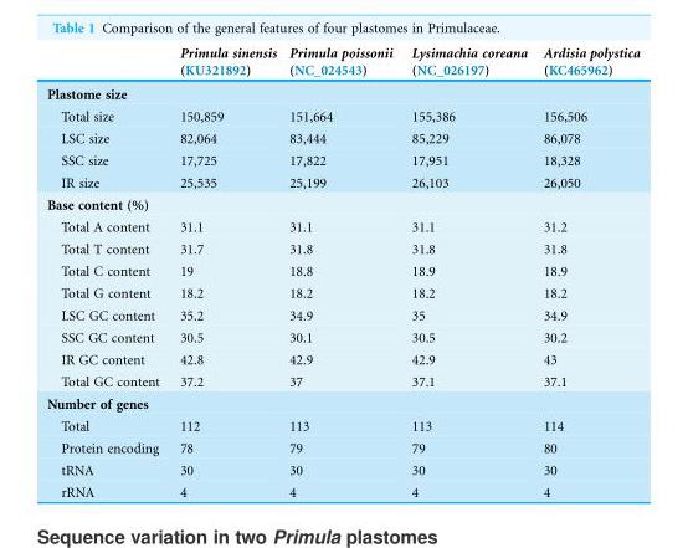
<table><thead><tr><td></td><td>Primula sinensis (KU321892)</td><td>Primula poissonii (NC_024543)</td><td>Lysimachia coreana (NC_026197)</td><td>Ardisia polystica (KC465962)</td></tr></thead><tbody><tr><td colspan="5">Plastome size</td></tr><tr><td>Total size</td><td>150,859</td><td>151,664</td><td>155,386</td><td>156,506</td></tr><tr><td>LSC size</td><td>82,064</td><td>83,444</td><td>85,229</td><td>86,078</td></tr><tr><td>SSC size</td><td>17,725</td><td>17,822</td><td>17,951</td><td>18,328</td></tr><tr><td>IR size</td><td>25,535</td><td>25,199</td><td>26,103</td><td>26,050</td></tr><tr><td colspan="5">Base content (%)</td></tr><tr><td>Total A content</td><td>31.1</td><td>31.1</td><td>31.1</td><td>31.2</td></tr><tr><td>Total T content</td><td>31.7</td><td>31.8</td><td>31.8</td><td>31.8</td></tr><tr><td>Total C content</td><td>19</td><td>18.8</td><td>18.9</td><td>18.9</td></tr><tr><td>Total G content</td><td>18.2</td><td>18.2</td><td>18.2</td><td>18.2</td></tr><tr><td>LSC GC content</td><td>35.2</td><td>34.9</td><td>35</td><td>34.9</td></tr><tr><td>SSC GC content</td><td>30.5</td><td>30.1</td><td>30.5</td><td>30.2</td></tr><tr><td>IR GC content</td><td>42.8</td><td>42.9</td><td>42.9</td><td>43</td></tr><tr><td>Total GC content</td><td>37.2</td><td>37</td><td>37.1</td><td>37.1</td></tr><tr><td colspan="5">Number of genes</td></tr><tr><td>Total</td><td>112</td><td>113</td><td>113</td><td>114</td></tr><tr><td>Protein encoding</td><td>78</td><td>79</td><td>79</td><td>80</td></tr><tr><td>tRNA</td><td>30</td><td>30</td><td>30</td><td>30</td></tr><tr><td>rRNA</td><td>4</td><td>4</td><td>4</td><td>4</td></tr></tbody></table>